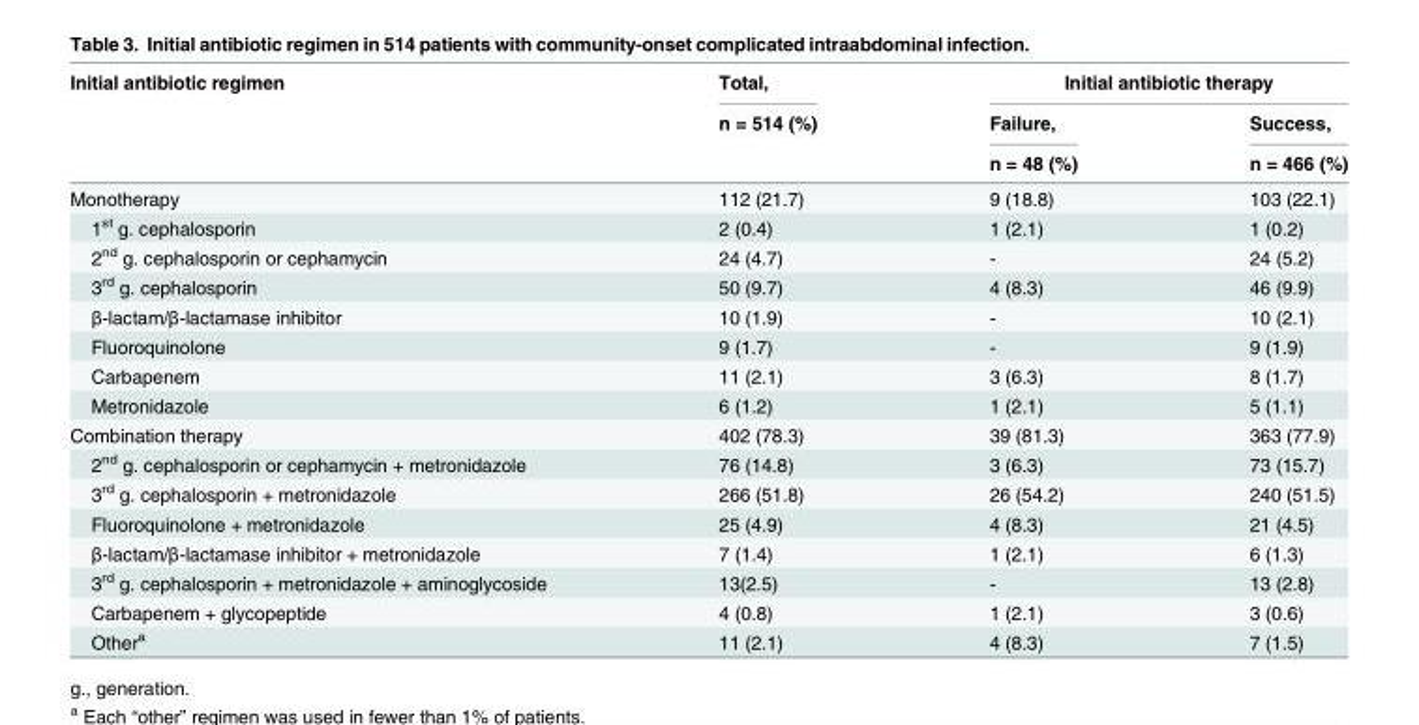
<table><thead><tr><td rowspan="3">Initial antibiotic regimen</td><td rowspan="3">Total, n = 514 (%)</td><td colspan="2">Initial antibiotic therapy</td></tr><tr><td rowspan="2">Failure, n = 48 (%)</td><td rowspan="2">Success, n = 466 (%)</td></tr><tr></tr></thead><tbody><tr><td>Monotherapy</td><td>112 (21.7)</td><td>9 (18.8)</td><td>103 (22.1)</td></tr><tr><td>1<sup>st</sup> g. cephalosporin</td><td>2 (0.4)</td><td>1 (2.1)</td><td>1 (0.2)</td></tr><tr><td>2<sup>nd</sup> g. cephalosporin or cephamycin</td><td>24 (4.7)</td><td>-</td><td>24 (5.2)</td></tr><tr><td>3<sup>rd</sup> g. cephalosporin</td><td>50 (9.7)</td><td>4 (8.3)</td><td>46 (9.9)</td></tr><tr><td>β-lactam/β-lactamase inhibitor</td><td>10 (1.9)</td><td>-</td><td>10 (2.1)</td></tr><tr><td>Fluoroquinolone</td><td>9 (1.7)</td><td>-</td><td>9 (1.9)</td></tr><tr><td>Carbapenem</td><td>11 (2.1)</td><td>3 (6.3)</td><td>8 (1.7)</td></tr><tr><td>Metronidazole</td><td>6 (1.2)</td><td>1 (2.1)</td><td>5 (1.1)</td></tr><tr><td>Combination therapy</td><td>402 (78.3)</td><td>39 (81.3)</td><td>363 (77.9)</td></tr><tr><td>2<sup>nd</sup> g. cephalosporin or cephamycin + metronidazole</td><td>76 (14.8)</td><td>3 (6.3)</td><td>73 (15.7)</td></tr><tr><td>3<sup>rd</sup> g. cephalosporin + metronidazole</td><td>266 (51.8)</td><td>26 (54.2)</td><td>240 (51.5)</td></tr><tr><td>Fluoroquinolone + metronidazole</td><td>25 (4.9)</td><td>4 (8.3)</td><td>21 (4.5)</td></tr><tr><td>β-lactam/β-lactamase inhibitor + metronidazole</td><td>7 (1.4)</td><td>1 (2.1)</td><td>6 (1.3)</td></tr><tr><td>3<sup>rd</sup> g. cephalosporin + metronidazole + aminoglycoside</td><td>13(2.5)</td><td>-</td><td>13 (2.8)</td></tr><tr><td>Carbapenem + glycopeptide</td><td>4 (0.8)</td><td>1 (2.1)</td><td>3 (0.6)</td></tr><tr><td>Other<sup>a</sup></td><td>11 (2.1)</td><td>4 (8.3)</td><td>7 (1.5)</td></tr></tbody></table>